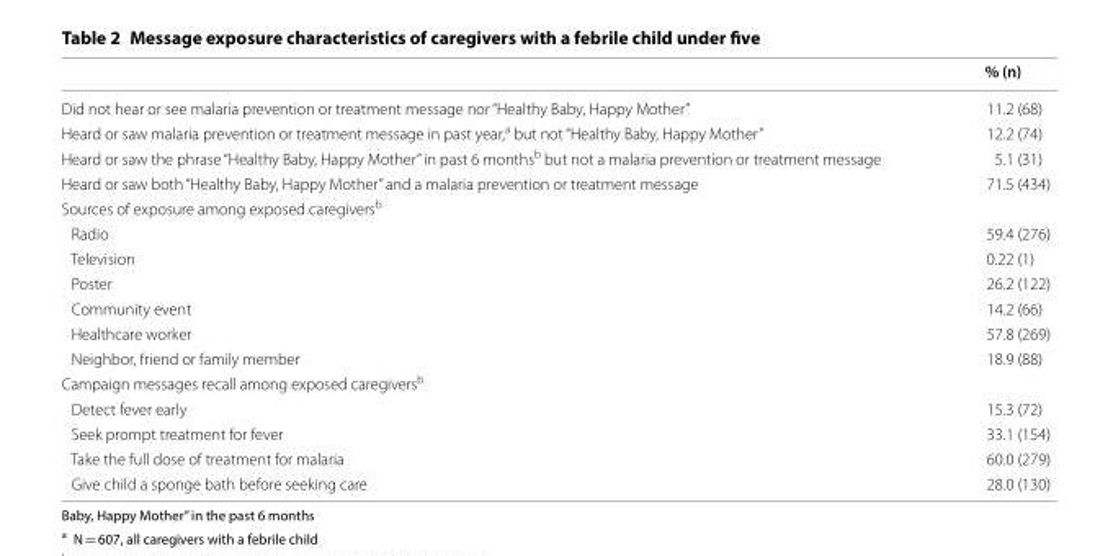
<table><thead><tr><td></td><td>% (n)</td></tr></thead><tbody><tr><td>Did not hear or see malaria prevention or treatment message nor “Healthy Baby, Happy Mother”</td><td>11.2 (68)</td></tr><tr><td>Heard or saw malaria prevention or treatment message in past year,<sup>a</sup> but not “Healthy Baby, Happy Mother”</td><td>12.2 (74)</td></tr><tr><td>Heard or saw the phrase “Healthy Baby, Happy Mother” in past 6 months<sup>b</sup> but not a malaria prevention or treatment message</td><td>5.1 (31)</td></tr><tr><td>Heard or saw both “Healthy Baby, Happy Mother” and a malaria prevention or treatment message</td><td>71.5 (434)</td></tr><tr><td colspan="2">Sources of exposure among exposed caregivers<sup>b</sup></td></tr><tr><td>Radio</td><td>59.4 (276)</td></tr><tr><td>Television</td><td>0.22 (1)</td></tr><tr><td>Poster</td><td>26.2 (122)</td></tr><tr><td>Community event</td><td>14.2 (66)</td></tr><tr><td>Healthcare worker</td><td>57.8 (269)</td></tr><tr><td>Neighbor, friend or family member</td><td>18.9 (88)</td></tr><tr><td colspan="2">Campaign messages recall among exposed caregivers<sup>b</sup></td></tr><tr><td>Detect fever early</td><td>15.3 (72)</td></tr><tr><td>Seek prompt treatment for fever</td><td>33.1 (154)</td></tr><tr><td>Take the full dose of treatment for malaria</td><td>60.0 (279)</td></tr><tr><td>Give child a sponge bath before seeking care</td><td>28.0 (130)</td></tr></tbody></table>